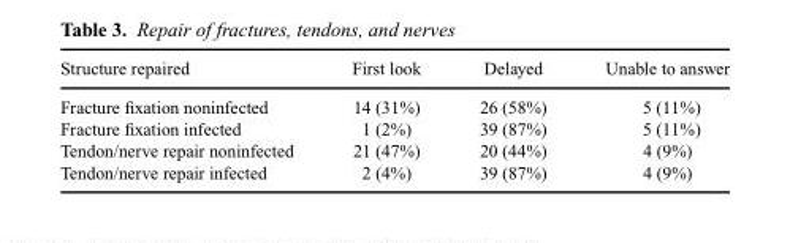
<table><thead><tr><td>Structure repaired</td><td>First look</td><td>Delayed</td><td>Unable to answer</td></tr></thead><tbody><tr><td>Fracture fixation noninfected</td><td>14 (31%)</td><td>26 (58%)</td><td>5 (11%)</td></tr><tr><td>Fracture fixation infected</td><td>1 (2%)</td><td>39 (87%)</td><td>5 (11%)</td></tr><tr><td>Tendon/nerve repair noninfected</td><td>21 (47%)</td><td>20 (44%)</td><td>4 (9%)</td></tr><tr><td>Tendon/nerve repair infected</td><td>2 (4%)</td><td>39 (87%)</td><td>4 (9%)</td></tr></tbody></table>